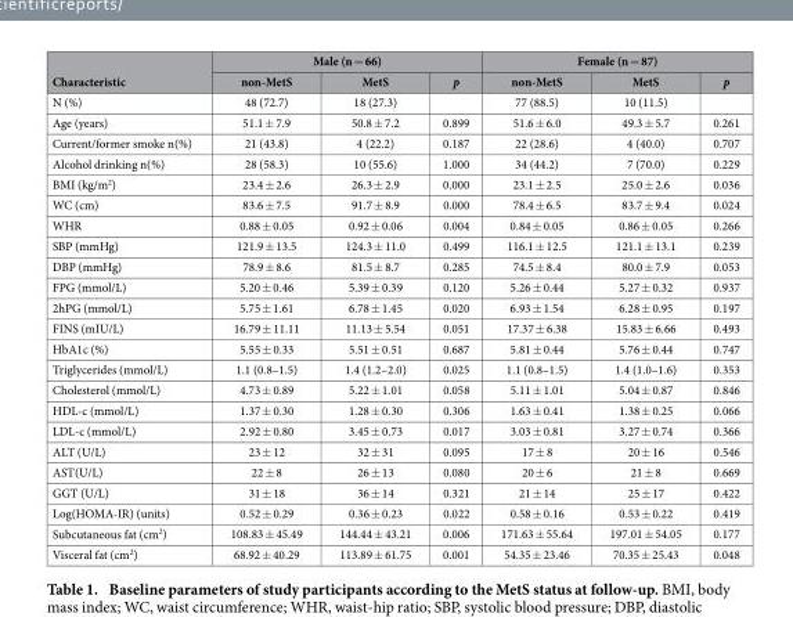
<table><thead><tr><td rowspan="2">Characteristic</td><td colspan="3">Male (n = 66)</td><td colspan="3">Female (n = 87)</td></tr><tr><td>non-MetS</td><td>MetS</td><td>p</td><td>non-MetS</td><td>MetS</td><td>p</td></tr></thead><tbody><tr><td>N (%)</td><td>48 (72.7)</td><td>18 (27.3)</td><td></td><td>77 (88.5)</td><td>10 (11.5)</td><td></td></tr><tr><td>Age (years)</td><td>51.1 ± 7.9</td><td>50.8 ± 7.2</td><td>0.899</td><td>51.6 ± 6.0</td><td>49.3 ± 5.7</td><td>0.261</td></tr><tr><td>Current/former smoke n(%)</td><td>21 (43.8)</td><td>4 (22.2)</td><td>0.187</td><td>22 (28.6)</td><td>4 (40.0)</td><td>0.707</td></tr><tr><td>Alcohol drinking n(%)</td><td>28 (58.3)</td><td>10 (55.6)</td><td>1.000</td><td>34 (44.2)</td><td>7 (70.0)</td><td>0.229</td></tr><tr><td>BMI (kg/m<sup>2</sup>)</td><td>23.4 ± 2.6</td><td>26.3 ± 2.9</td><td>0.000</td><td>23.1 ± 2.5</td><td>25.0 ± 2.6</td><td>0.036</td></tr><tr><td>WC (cm)</td><td>83.6 ± 7.5</td><td>91.7 ± 8.9</td><td>0.000</td><td>78.4 ± 6.5</td><td>83.7 ± 9.4</td><td>0.024</td></tr><tr><td>WHR</td><td>0.88 ± 0.05</td><td>0.92 ± 0.06</td><td>0.004</td><td>0.84 ± 0.05</td><td>0.86 ± 0.05</td><td>0.266</td></tr><tr><td>SBP (mmHg)</td><td>121.9 ± 13.5</td><td>124.3 ± 11.0</td><td>0.499</td><td>116.1 ± 12.5</td><td>121.1 ± 13.1</td><td>0.239</td></tr><tr><td>DBP (mmHg)</td><td>78.9 ± 8.6</td><td>81.5 ± 8.7</td><td>0.285</td><td>74.5 ± 8.4</td><td>80.0 ± 7.9</td><td>0.053</td></tr><tr><td>FPG (mmol/L)</td><td>5.20 ± 0.46</td><td>5.39 ± 0.39</td><td>0.120</td><td>5.26 ± 0.44</td><td>5.27 ± 0.32</td><td>0.937</td></tr><tr><td>2hPG (mmol/L)</td><td>5.75 ± 1.61</td><td>6.78 ± 1.45</td><td>0.020</td><td>6.93 ± 1.54</td><td>6.28 ± 0.95</td><td>0.197</td></tr><tr><td>FINS (mIU/L)</td><td>16.79 ± 11.11</td><td>11.13 ± 5.54</td><td>0.051</td><td>17.37 ± 6.38</td><td>15.83 ± 6.66</td><td>0.493</td></tr><tr><td>HbA1c (%)</td><td>5.55 ± 0.33</td><td>5.51 ± 0.51</td><td>0.687</td><td>5.81 ± 0.44</td><td>5.76 ± 0.44</td><td>0.747</td></tr><tr><td>Triglycerides (mmol/L)</td><td>1.1 (0.8–1.5)</td><td>1.4 (1.2–2.0)</td><td>0.025</td><td>1.1 (0.8–1.5)</td><td>1.4 (1.0–1.6)</td><td>0.353</td></tr><tr><td>Cholesterol (mmol/L)</td><td>4.73 ± 0.89</td><td>5.22 ± 1.01</td><td>0.058</td><td>5.11 ± 1.01</td><td>5.04 ± 0.87</td><td>0.846</td></tr><tr><td>HDL-c (mmol/L)</td><td>1.37 ± 0.30</td><td>1.28 ± 0.30</td><td>0.306</td><td>1.63 ± 0.41</td><td>1.38 ± 0.25</td><td>0.066</td></tr><tr><td>LDL-c (mmol/L)</td><td>2.92 ± 0.80</td><td>3.45 ± 0.73</td><td>0.017</td><td>3.03 ± 0.81</td><td>3.27 ± 0.74</td><td>0.366</td></tr><tr><td>ALT (U/L)</td><td>23 ± 12</td><td>32 ± 31</td><td>0.095</td><td>17 ± 8</td><td>20 ± 16</td><td>0.546</td></tr><tr><td>AST(U/L)</td><td>22 ± 8</td><td>26 ± 13</td><td>0.080</td><td>20 ± 6</td><td>21 ± 8</td><td>0.669</td></tr><tr><td>GGT (U/L)</td><td>31 ± 18</td><td>36 ± 14</td><td>0.321</td><td>21 ± 14</td><td>25 ± 17</td><td>0.422</td></tr><tr><td>Log(HOMA-IR) (units)</td><td>0.52 ± 0.29</td><td>0.36 ± 0.23</td><td>0.022</td><td>0.58 ± 0.16</td><td>0.53 ± 0.22</td><td>0.419</td></tr><tr><td>Subcutaneous fat (cm<sup>2</sup>)</td><td>108.83 ± 45.49</td><td>144.44 ± 43.21</td><td>0.006</td><td>171.63 ± 55.64</td><td>197.01 ± 54.05</td><td>0.177</td></tr><tr><td>Visceral fat (cm<sup>2</sup>)</td><td>68.92 ± 40.29</td><td>113.89 ± 61.75</td><td>0.001</td><td>54.35 ± 23.46</td><td>70.35 ± 25.43</td><td>0.048</td></tr></tbody></table>